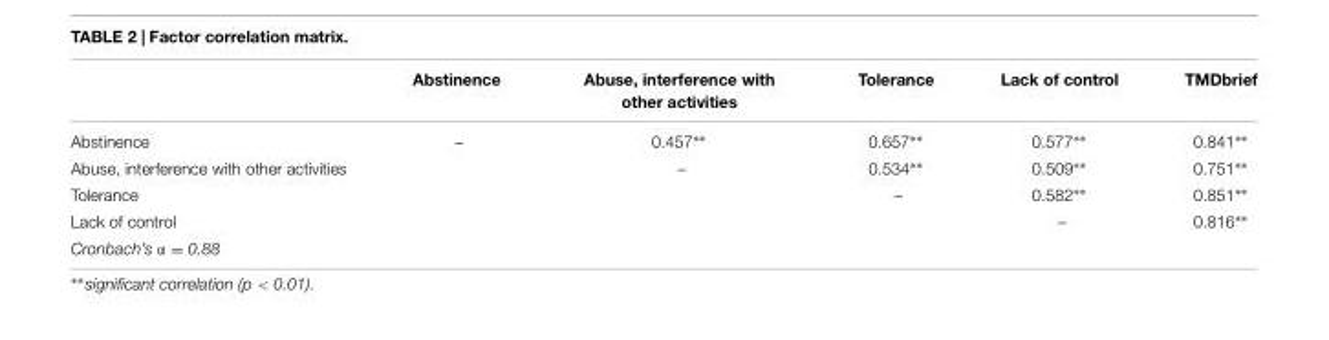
<table><thead><tr><td></td><td>Abstinence</td><td>Abuse, interference with other activities</td><td>Tolerance</td><td>Lack of control</td><td>TMDbrief</td></tr></thead><tbody><tr><td>Abstinence</td><td>–</td><td>0.457∗∗</td><td>0.657∗∗</td><td>0.577∗∗</td><td>0.841∗∗</td></tr><tr><td>Abuse, interference with other activities</td><td></td><td>–</td><td>0.534∗∗</td><td>0.509∗∗</td><td>0.751∗∗</td></tr><tr><td>Tolerance</td><td></td><td></td><td>–</td><td>0.582∗∗</td><td>0.851∗∗</td></tr><tr><td>Lack of control</td><td></td><td></td><td></td><td>–</td><td>0.816∗∗</td></tr><tr><td>Cronbach’s α = 0.88</td><td></td><td></td><td></td><td></td><td></td></tr></tbody></table>